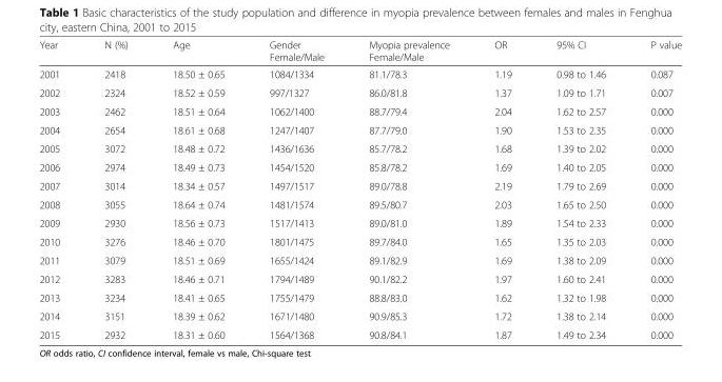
<table><thead><tr><td>Year</td><td>N (%)</td><td>Age</td><td>Gender Female/Male</td><td>Myopia prevalence Female/Male</td><td>OR</td><td>95% CI</td><td>P value</td></tr></thead><tbody><tr><td>2001</td><td>2418</td><td>18.50 ± 0.65</td><td>1084/1334</td><td>81.1/78.3</td><td>1.19</td><td>0.98 to 1.46</td><td>0.087</td></tr><tr><td>2002</td><td>2324</td><td>18.52 ± 0.59</td><td>997/1327</td><td>86.0/81.8</td><td>1.37</td><td>1.09 to 1.71</td><td>0.007</td></tr><tr><td>2003</td><td>2462</td><td>18.51 ± 0.64</td><td>1062/1400</td><td>88.7/79.4</td><td>2.04</td><td>1.62 to 2.57</td><td>0.000</td></tr><tr><td>2004</td><td>2654</td><td>18.61 ± 0.68</td><td>1247/1407</td><td>87.7/79.0</td><td>1.90</td><td>1.53 to 2.35</td><td>0.000</td></tr><tr><td>2005</td><td>3072</td><td>18.48 ± 0.72</td><td>1436/1636</td><td>85.7/78.2</td><td>1.68</td><td>1.39 to 2.02</td><td>0.000</td></tr><tr><td>2006</td><td>2974</td><td>18.49 ± 0.73</td><td>1454/1520</td><td>85.8/78.2</td><td>1.69</td><td>1.40 to 2.05</td><td>0.000</td></tr><tr><td>2007</td><td>3014</td><td>18.34 ± 0.57</td><td>1497/1517</td><td>89.0/78.8</td><td>2.19</td><td>1.79 to 2.69</td><td>0.000</td></tr><tr><td>2008</td><td>3055</td><td>18.64 ± 0.74</td><td>1481/1574</td><td>89.5/80.7</td><td>2.03</td><td>1.65 to 2.50</td><td>0.000</td></tr><tr><td>2009</td><td>2930</td><td>18.56 ± 0.73</td><td>1517/1413</td><td>89.0/81.0</td><td>1.89</td><td>1.54 to 2.33</td><td>0.000</td></tr><tr><td>2010</td><td>3276</td><td>18.46 ± 0.70</td><td>1801/1475</td><td>89.7/84.0</td><td>1.65</td><td>1.35 to 2.03</td><td>0.000</td></tr><tr><td>2011</td><td>3079</td><td>18.51 ± 0.69</td><td>1655/1424</td><td>89.1/82.9</td><td>1.69</td><td>1.38 to 2.09</td><td>0.000</td></tr><tr><td>2012</td><td>3283</td><td>18.46 ± 0.71</td><td>1794/1489</td><td>90.1/82.2</td><td>1.97</td><td>1.60 to 2.41</td><td>0.000</td></tr><tr><td>2013</td><td>3234</td><td>18.41 ± 0.65</td><td>1755/1479</td><td>88.8/83.0</td><td>1.62</td><td>1.32 to 1.98</td><td>0.000</td></tr><tr><td>2014</td><td>3151</td><td>18.39 ± 0.62</td><td>1671/1480</td><td>90.9/85.3</td><td>1.72</td><td>1.38 to 2.14</td><td>0.000</td></tr><tr><td>2015</td><td>2932</td><td>18.31 ± 0.60</td><td>1564/1368</td><td>90.8/84.1</td><td>1.87</td><td>1.49 to 2.34</td><td>0.000</td></tr></tbody></table>